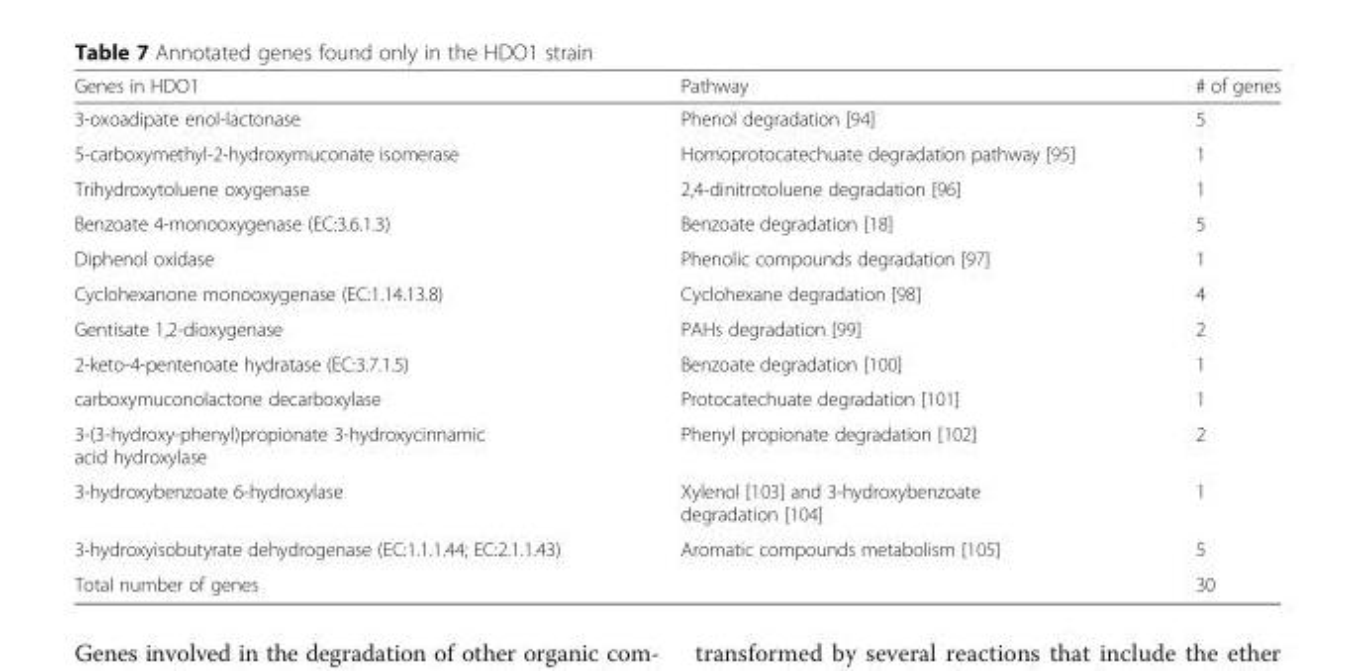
<table><thead><tr><td>Genes in HDO1</td><td>Pathway</td><td># of genes</td></tr></thead><tbody><tr><td>3-oxoadipate enol-lactonase</td><td>Phenol degradation [94]</td><td>5</td></tr><tr><td>5-carboxymethyl-2-hydroxymuconate isomerase</td><td>Homoprotocatechuate degradation pathway [95]</td><td>1</td></tr><tr><td>Trihydroxytoluene oxygenase</td><td>2,4-dinitrotoluene degradation [96]</td><td>1</td></tr><tr><td>Benzoate 4-monooxygenase (EC:3.6.1.3)</td><td>Benzoate degradation [18]</td><td>5</td></tr><tr><td>Diphenol oxidase</td><td>Phenolic compounds degradation [97]</td><td>1</td></tr><tr><td>Cyclohexanone monooxygenase (EC:1.14.13.8)</td><td>Cyclohexane degradation [98]</td><td>4</td></tr><tr><td>Gentisate 1,2-dioxygenase</td><td>PAHs degradation [99]</td><td>2</td></tr><tr><td>2-keto-4-pentenoate hydratase (EC:3.7.1.5)</td><td>Benzoate degradation [100]</td><td>1</td></tr><tr><td>carboxymuconolactone decarboxylase</td><td>Protocatechuate degradation [101]</td><td>1</td></tr><tr><td>3-(3-hydroxy-phenyl)propionate 3-hydroxycinnamic acid hydroxylase</td><td>Phenyl propionate degradation [102]</td><td>2</td></tr><tr><td>3-hydroxybenzoate 6-hydroxylase</td><td>Xylenol [103] and 3-hydroxybenzoate degradation [104]</td><td>1</td></tr><tr><td>3-hydroxyisobutyrate dehydrogenase (EC:1.1.1.44; EC:2.1.1.43)</td><td>Aromatic compounds metabolism [105]</td><td>5</td></tr><tr><td>Total number of genes</td><td></td><td>30</td></tr></tbody></table>